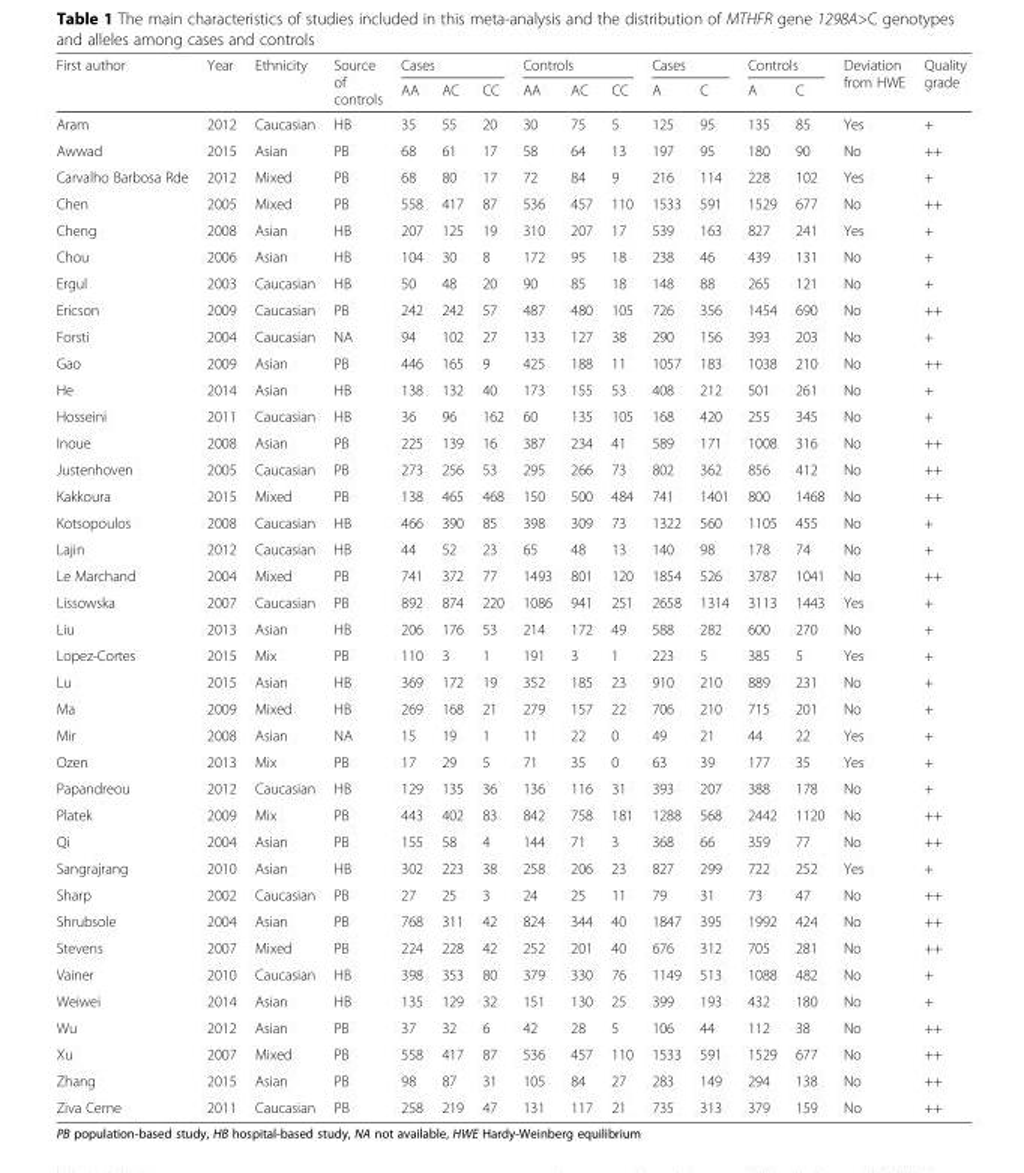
<table><thead><tr><td rowspan="2">First author</td><td rowspan="2">Year</td><td rowspan="2">Ethnicity</td><td rowspan="2">Source of controls</td><td colspan="3">Cases</td><td colspan="3">Controls</td><td colspan="2">Cases</td><td colspan="2">Controls</td><td rowspan="2">Deviation from HWE</td><td rowspan="2">Quality grade</td></tr><tr><td>AA</td><td>AC</td><td>CC</td><td>AA</td><td>AC</td><td>CC</td><td>A</td><td>C</td><td>A</td><td>C</td></tr></thead><tbody><tr><td>Aram</td><td>2012</td><td>Caucasian</td><td>HB</td><td>35</td><td>55</td><td>20</td><td>30</td><td>75</td><td>5</td><td>125</td><td>95</td><td>135</td><td>85</td><td>Yes</td><td>+</td></tr><tr><td>Awwad</td><td>2015</td><td>Asian</td><td>PB</td><td>68</td><td>61</td><td>17</td><td>58</td><td>64</td><td>13</td><td>197</td><td>95</td><td>180</td><td>90</td><td>No</td><td>++</td></tr><tr><td>Carvalho Barbosa Rde</td><td>2012</td><td>Mixed</td><td>PB</td><td>68</td><td>80</td><td>17</td><td>72</td><td>84</td><td>9</td><td>216</td><td>114</td><td>228</td><td>102</td><td>Yes</td><td>+</td></tr><tr><td>Chen</td><td>2005</td><td>Mixed</td><td>PB</td><td>558</td><td>417</td><td>87</td><td>536</td><td>457</td><td>110</td><td>1533</td><td>591</td><td>1529</td><td>677</td><td>No</td><td>++</td></tr><tr><td>Cheng</td><td>2008</td><td>Asian</td><td>HB</td><td>207</td><td>125</td><td>19</td><td>310</td><td>207</td><td>17</td><td>539</td><td>163</td><td>827</td><td>241</td><td>Yes</td><td>+</td></tr><tr><td>Chou</td><td>2006</td><td>Asian</td><td>HB</td><td>104</td><td>30</td><td>8</td><td>172</td><td>95</td><td>18</td><td>238</td><td>46</td><td>439</td><td>131</td><td>No</td><td>+</td></tr><tr><td>Ergul</td><td>2003</td><td>Caucasian</td><td>HB</td><td>50</td><td>48</td><td>20</td><td>90</td><td>85</td><td>18</td><td>148</td><td>88</td><td>265</td><td>121</td><td>No</td><td>+</td></tr><tr><td>Ericson</td><td>2009</td><td>Caucasian</td><td>PB</td><td>242</td><td>242</td><td>57</td><td>487</td><td>480</td><td>105</td><td>726</td><td>356</td><td>1454</td><td>690</td><td>No</td><td>++</td></tr><tr><td>Forsti</td><td>2004</td><td>Caucasian</td><td>NA</td><td>94</td><td>102</td><td>27</td><td>133</td><td>127</td><td>38</td><td>290</td><td>156</td><td>393</td><td>203</td><td>No</td><td>+</td></tr><tr><td>Gao</td><td>2009</td><td>Asian</td><td>PB</td><td>446</td><td>165</td><td>9</td><td>425</td><td>188</td><td>11</td><td>1057</td><td>183</td><td>1038</td><td>210</td><td>No</td><td>++</td></tr><tr><td>He</td><td>2014</td><td>Asian</td><td>HB</td><td>138</td><td>132</td><td>40</td><td>173</td><td>155</td><td>53</td><td>408</td><td>212</td><td>501</td><td>261</td><td>No</td><td>+</td></tr><tr><td>Hosseini</td><td>2011</td><td>Caucasian</td><td>HB</td><td>36</td><td>96</td><td>162</td><td>60</td><td>135</td><td>105</td><td>168</td><td>420</td><td>255</td><td>345</td><td>No</td><td>+</td></tr><tr><td>Inoue</td><td>2008</td><td>Asian</td><td>PB</td><td>225</td><td>139</td><td>16</td><td>387</td><td>234</td><td>41</td><td>589</td><td>171</td><td>1008</td><td>316</td><td>No</td><td>++</td></tr><tr><td>Justenhoven</td><td>2005</td><td>Caucasian</td><td>PB</td><td>273</td><td>256</td><td>53</td><td>295</td><td>266</td><td>73</td><td>802</td><td>362</td><td>856</td><td>412</td><td>No</td><td>++</td></tr><tr><td>Kakkoura</td><td>2015</td><td>Mixed</td><td>PB</td><td>138</td><td>465</td><td>468</td><td>150</td><td>500</td><td>484</td><td>741</td><td>1401</td><td>800</td><td>1468</td><td>No</td><td>++</td></tr><tr><td>Kotsopoulos</td><td>2008</td><td>Caucasian</td><td>HB</td><td>466</td><td>390</td><td>85</td><td>398</td><td>309</td><td>73</td><td>1322</td><td>560</td><td>1105</td><td>455</td><td>No</td><td>+</td></tr><tr><td>Lajin</td><td>2012</td><td>Caucasian</td><td>HB</td><td>44</td><td>52</td><td>23</td><td>65</td><td>48</td><td>13</td><td>140</td><td>98</td><td>178</td><td>74</td><td>No</td><td>+</td></tr><tr><td>Le Marchand</td><td>2004</td><td>Mixed</td><td>PB</td><td>741</td><td>372</td><td>77</td><td>1493</td><td>801</td><td>120</td><td>1854</td><td>526</td><td>3787</td><td>1041</td><td>No</td><td>++</td></tr><tr><td>Lissowska</td><td>2007</td><td>Caucasian</td><td>PB</td><td>892</td><td>874</td><td>220</td><td>1086</td><td>941</td><td>251</td><td>2658</td><td>1314</td><td>3113</td><td>1443</td><td>Yes</td><td>+</td></tr><tr><td>Liu</td><td>2013</td><td>Asian</td><td>HB</td><td>206</td><td>176</td><td>53</td><td>214</td><td>172</td><td>49</td><td>588</td><td>282</td><td>600</td><td>270</td><td>No</td><td>+</td></tr><tr><td>Lopez-Cortes</td><td>2015</td><td>Mix</td><td>PB</td><td>110</td><td>3</td><td>1</td><td>191</td><td>3</td><td>1</td><td>223</td><td>5</td><td>385</td><td>5</td><td>Yes</td><td>+</td></tr><tr><td>Lu</td><td>2015</td><td>Asian</td><td>HB</td><td>369</td><td>172</td><td>19</td><td>352</td><td>185</td><td>23</td><td>910</td><td>210</td><td>889</td><td>231</td><td>No</td><td>+</td></tr><tr><td>Ma</td><td>2009</td><td>Mixed</td><td>HB</td><td>269</td><td>168</td><td>21</td><td>279</td><td>157</td><td>22</td><td>706</td><td>210</td><td>715</td><td>201</td><td>No</td><td>+</td></tr><tr><td>Mir</td><td>2008</td><td>Asian</td><td>NA</td><td>15</td><td>19</td><td>1</td><td>11</td><td>22</td><td>0</td><td>49</td><td>21</td><td>44</td><td>22</td><td>Yes</td><td>+</td></tr><tr><td>Ozen</td><td>2013</td><td>Mix</td><td>PB</td><td>17</td><td>29</td><td>5</td><td>71</td><td>35</td><td>0</td><td>63</td><td>39</td><td>177</td><td>35</td><td>Yes</td><td>+</td></tr><tr><td>Papandreou</td><td>2012</td><td>Caucasian</td><td>HB</td><td>129</td><td>135</td><td>36</td><td>136</td><td>116</td><td>31</td><td>393</td><td>207</td><td>388</td><td>178</td><td>No</td><td>+</td></tr><tr><td>Platek</td><td>2009</td><td>Mix</td><td>PB</td><td>443</td><td>402</td><td>83</td><td>842</td><td>758</td><td>181</td><td>1288</td><td>568</td><td>2442</td><td>1120</td><td>No</td><td>++</td></tr><tr><td>Qi</td><td>2004</td><td>Asian</td><td>PB</td><td>155</td><td>58</td><td>4</td><td>144</td><td>71</td><td>3</td><td>368</td><td>66</td><td>359</td><td>77</td><td>No</td><td>++</td></tr><tr><td>Sangrajrang</td><td>2010</td><td>Asian</td><td>HB</td><td>302</td><td>223</td><td>38</td><td>258</td><td>206</td><td>23</td><td>827</td><td>299</td><td>722</td><td>252</td><td>Yes</td><td>+</td></tr><tr><td>Sharp</td><td>2002</td><td>Caucasian</td><td>PB</td><td>27</td><td>25</td><td>3</td><td>24</td><td>25</td><td>11</td><td>79</td><td>31</td><td>73</td><td>47</td><td>No</td><td>++</td></tr><tr><td>Shrubsole</td><td>2004</td><td>Asian</td><td>PB</td><td>768</td><td>311</td><td>42</td><td>824</td><td>344</td><td>40</td><td>1847</td><td>395</td><td>1992</td><td>424</td><td>No</td><td>++</td></tr><tr><td>Stevens</td><td>2007</td><td>Mixed</td><td>PB</td><td>224</td><td>228</td><td>42</td><td>252</td><td>201</td><td>40</td><td>676</td><td>312</td><td>705</td><td>281</td><td>No</td><td>++</td></tr><tr><td>Vainer</td><td>2010</td><td>Caucasian</td><td>HB</td><td>398</td><td>353</td><td>80</td><td>379</td><td>330</td><td>76</td><td>1149</td><td>513</td><td>1088</td><td>482</td><td>No</td><td>+</td></tr><tr><td>Weiwei</td><td>2014</td><td>Asian</td><td>HB</td><td>135</td><td>129</td><td>32</td><td>151</td><td>130</td><td>25</td><td>399</td><td>193</td><td>432</td><td>180</td><td>No</td><td>+</td></tr><tr><td>Wu</td><td>2012</td><td>Asian</td><td>PB</td><td>37</td><td>32</td><td>6</td><td>42</td><td>28</td><td>5</td><td>106</td><td>44</td><td>112</td><td>38</td><td>No</td><td>++</td></tr><tr><td>Xu</td><td>2007</td><td>Mixed</td><td>PB</td><td>558</td><td>417</td><td>87</td><td>536</td><td>457</td><td>110</td><td>1533</td><td>591</td><td>1529</td><td>677</td><td>No</td><td>++</td></tr><tr><td>Zhang</td><td>2015</td><td>Asian</td><td>PB</td><td>98</td><td>87</td><td>31</td><td>105</td><td>84</td><td>27</td><td>283</td><td>149</td><td>294</td><td>138</td><td>No</td><td>++</td></tr><tr><td>Ziva Cerne</td><td>2011</td><td>Caucasian</td><td>PB</td><td>258</td><td>219</td><td>47</td><td>131</td><td>117</td><td>21</td><td>735</td><td>313</td><td>379</td><td>159</td><td>No</td><td>++</td></tr></tbody></table>